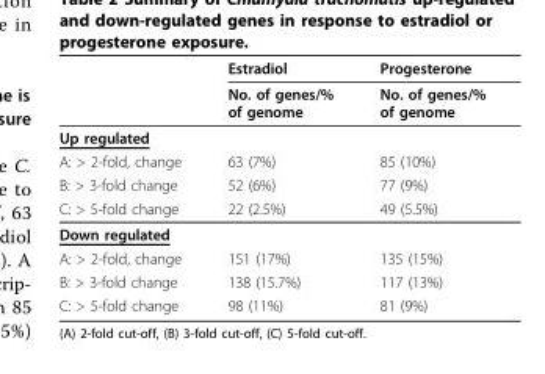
<table><thead><tr><td rowspan="2"></td><td rowspan="2">Estradiol No. of genes/% of genome</td><td rowspan="2">Progesterone No. of genes/% of genome</td></tr><tr></tr></thead><tbody><tr><td colspan="3">Up regulated</td></tr><tr><td>A: &gt; 2-fold, change</td><td>63 (7%)</td><td>85 (10%)</td></tr><tr><td>B: &gt; 3-fold change</td><td>52 (6%)</td><td>77 (9%)</td></tr><tr><td>C: &gt; 5-fold change</td><td>22 (2.5%)</td><td>49 (5.5%)</td></tr><tr><td colspan="3">Down regulated</td></tr><tr><td>A: &gt; 2-fold, change</td><td>151 (17%)</td><td>135 (15%)</td></tr><tr><td>B: &gt; 3-fold change</td><td>138 (15.7%)</td><td>117 (13%)</td></tr><tr><td>C: &gt; 5-fold change</td><td>98 (11%)</td><td>81 (9%)</td></tr></tbody></table>